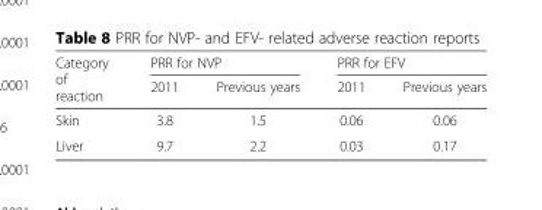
<table><thead><tr><td rowspan="2">Category of reaction</td><td colspan="2">PRR for NVP</td><td colspan="2">PRR for EFV</td></tr><tr><td>2011</td><td>Previous years</td><td>2011</td><td>Previous years</td></tr></thead><tbody><tr><td>Skin</td><td>3.8</td><td>1.5</td><td>0.06</td><td>0.06</td></tr><tr><td>Liver</td><td>9.7</td><td>2.2</td><td>0.03</td><td>0.17</td></tr></tbody></table>